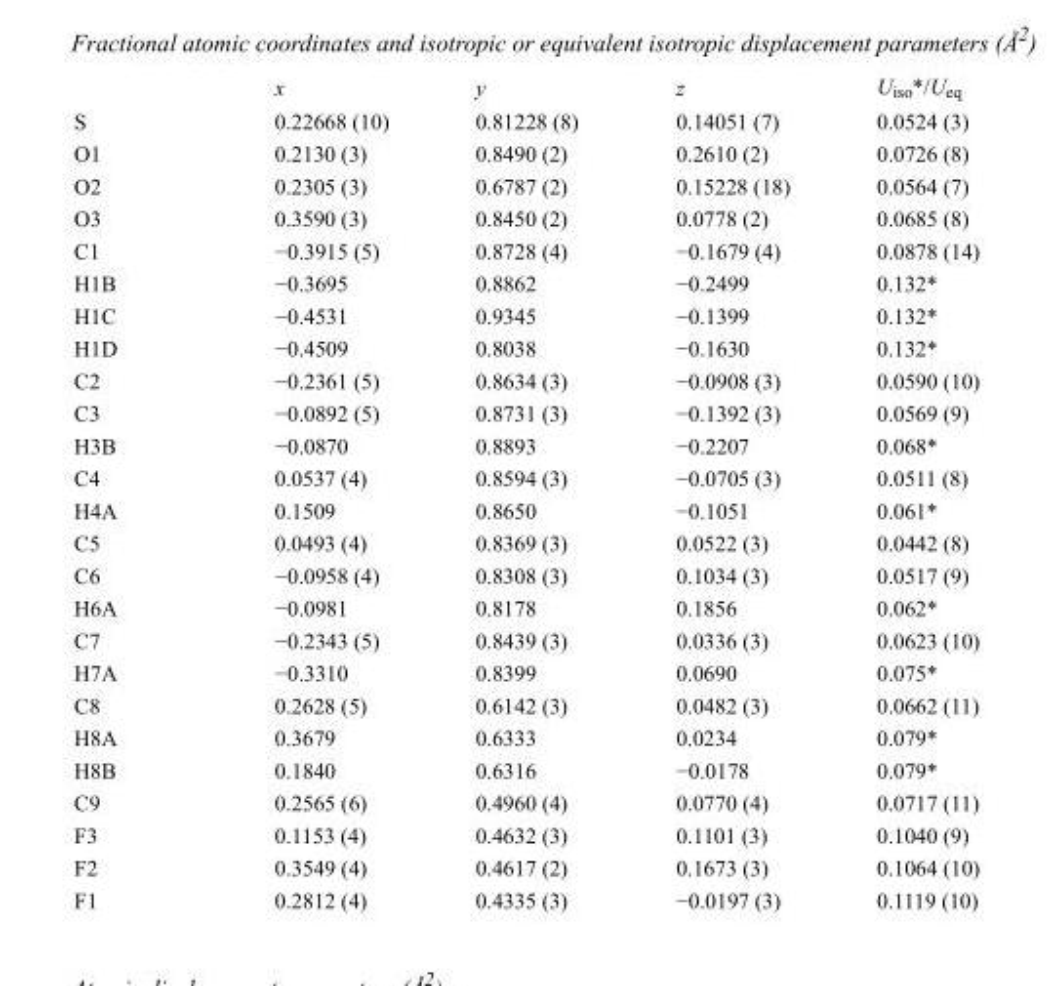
<table><thead><tr><td></td><td>x</td><td>y</td><td>z</td><td>U<sub>iso</sub>*/U<sub>eq</sub></td></tr></thead><tbody><tr><td>S</td><td>0.22668 (10)</td><td>0.81228 (8)</td><td>0.14051 (7)</td><td>0.0524 (3)</td></tr><tr><td>O1</td><td>0.2130 (3)</td><td>0.8490 (2)</td><td>0.2610 (2)</td><td>0.0726 (8)</td></tr><tr><td>O2</td><td>0.2305 (3)</td><td>0.6787 (2)</td><td>0.15228 (18)</td><td>0.0564 (7)</td></tr><tr><td>O3</td><td>0.3590 (3)</td><td>0.8450 (2)</td><td>0.0778 (2)</td><td>0.0685 (8)</td></tr><tr><td>C1</td><td>−0.3915 (5)</td><td>0.8728 (4)</td><td>−0.1679 (4)</td><td>0.0878 (14)</td></tr><tr><td>H1B</td><td>−0.3695</td><td>0.8862</td><td>−0.2499</td><td>0.132*</td></tr><tr><td>H1C</td><td>−0.4531</td><td>0.9345</td><td>−0.1399</td><td>0.132*</td></tr><tr><td>H1D</td><td>−0.4509</td><td>0.8038</td><td>−0.1630</td><td>0.132*</td></tr><tr><td>C2</td><td>−0.2361 (5)</td><td>0.8634 (3)</td><td>−0.0908 (3)</td><td>0.0590 (10)</td></tr><tr><td>C3</td><td>−0.0892 (5)</td><td>0.8731 (3)</td><td>−0.1392 (3)</td><td>0.0569 (9)</td></tr><tr><td>H3B</td><td>−0.0870</td><td>0.8893</td><td>−0.2207</td><td>0.068*</td></tr><tr><td>C4</td><td>0.0537 (4)</td><td>0.8594 (3)</td><td>−0.0705 (3)</td><td>0.0511 (8)</td></tr><tr><td>H4A</td><td>0.1509</td><td>0.8650</td><td>−0.1051</td><td>0.061*</td></tr><tr><td>C5</td><td>0.0493 (4)</td><td>0.8369 (3)</td><td>0.0522 (3)</td><td>0.0442 (8)</td></tr><tr><td>C6</td><td>−0.0958 (4)</td><td>0.8308 (3)</td><td>0.1034 (3)</td><td>0.0517 (9)</td></tr><tr><td>H6A</td><td>−0.0981</td><td>0.8178</td><td>0.1856</td><td>0.062*</td></tr><tr><td>C7</td><td>−0.2343 (5)</td><td>0.8439 (3)</td><td>0.0336 (3)</td><td>0.0623 (10)</td></tr><tr><td>H7A</td><td>−0.3310</td><td>0.8399</td><td>0.0690</td><td>0.075*</td></tr><tr><td>C8</td><td>0.2628 (5)</td><td>0.6142 (3)</td><td>0.0482 (3)</td><td>0.0662 (11)</td></tr><tr><td>H8A</td><td>0.3679</td><td>0.6333</td><td>0.0234</td><td>0.079*</td></tr><tr><td>H8B</td><td>0.1840</td><td>0.6316</td><td>−0.0178</td><td>0.079*</td></tr><tr><td>C9</td><td>0.2565 (6)</td><td>0.4960 (4)</td><td>0.0770 (4)</td><td>0.0717 (11)</td></tr><tr><td>F3</td><td>0.1153 (4)</td><td>0.4632 (3)</td><td>0.1101 (3)</td><td>0.1040 (9)</td></tr><tr><td>F2</td><td>0.3549 (4)</td><td>0.4617 (2)</td><td>0.1673 (3)</td><td>0.1064 (10)</td></tr><tr><td>F1</td><td>0.2812 (4)</td><td>0.4335 (3)</td><td>−0.0197 (3)</td><td>0.1119 (10)</td></tr></tbody></table>